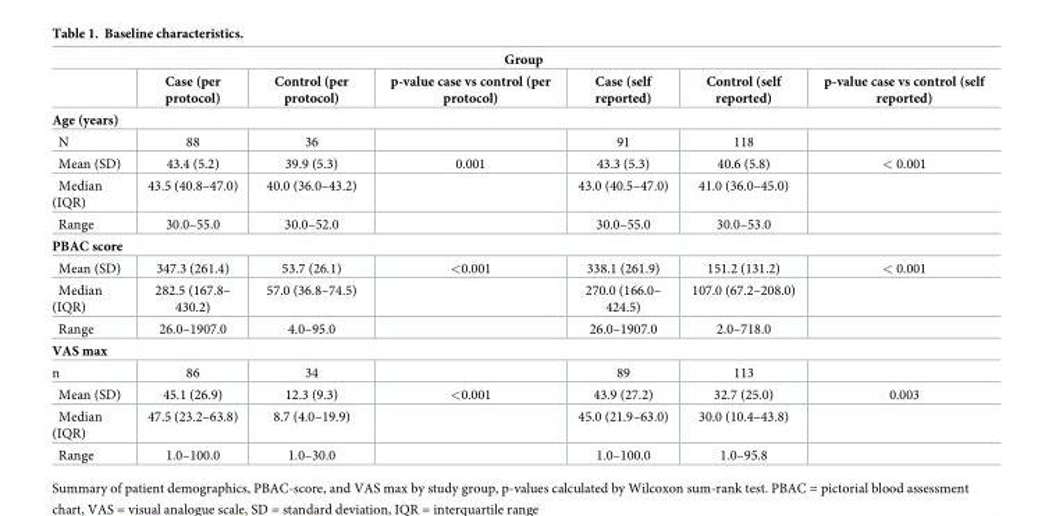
<table><thead><tr><td colspan="7">Group</td></tr><tr><td></td><td>Case (per protocol)</td><td>Control (per protocol)</td><td>p-value case vs control (per protocol)</td><td>Case (self reported)</td><td>Control (self reported)</td><td>p-value case vs control (self reported)</td></tr></thead><tbody><tr><td colspan="7">Age (years)</td></tr><tr><td>N</td><td>88</td><td>36</td><td></td><td>91</td><td>118</td><td></td></tr><tr><td>Mean (SD)</td><td>43.4 (5.2)</td><td>39.9 (5.3)</td><td>0.001</td><td>43.3 (5.3)</td><td>40.6 (5.8)</td><td>&lt; 0.001</td></tr><tr><td>Median (IQR)</td><td>43.5 (40.8–47.0)</td><td>40.0 (36.0–43.2)</td><td></td><td>43.0 (40.5–47.0)</td><td>41.0 (36.0–45.0)</td><td></td></tr><tr><td>Range</td><td>30.0–55.0</td><td>30.0–52.0</td><td></td><td>30.0–55.0</td><td>30.0–53.0</td><td></td></tr><tr><td colspan="7">PBAC score</td></tr><tr><td>Mean (SD)</td><td>347.3 (261.4)</td><td>53.7 (26.1)</td><td>&lt;0.001</td><td>338.1 (261.9)</td><td>151.2 (131.2)</td><td>&lt; 0.001</td></tr><tr><td>Median (IQR)</td><td>282.5 (167.8– 430.2)</td><td>57.0 (36.8–74.5)</td><td></td><td>270.0 (166.0– 424.5)</td><td>107.0 (67.2–208.0)</td><td></td></tr><tr><td>Range</td><td>26.0–1907.0</td><td>4.0–95.0</td><td></td><td>26.0–1907.0</td><td>2.0–718.0</td><td></td></tr><tr><td colspan="7">VAS max</td></tr><tr><td>n</td><td>86</td><td>34</td><td></td><td>89</td><td>113</td><td></td></tr><tr><td>Mean (SD)</td><td>45.1 (26.9)</td><td>12.3 (9.3)</td><td>&lt;0.001</td><td>43.9 (27.2)</td><td>32.7 (25.0)</td><td>0.003</td></tr><tr><td>Median (IQR)</td><td>47.5 (23.2–63.8)</td><td>8.7 (4.0–19.9)</td><td></td><td>45.0 (21.9–63.0)</td><td>30.0 (10.4–43.8)</td><td></td></tr><tr><td>Range</td><td>1.0–100.0</td><td>1.0–30.0</td><td></td><td>1.0–100.0</td><td>1.0–95.8</td><td></td></tr></tbody></table>